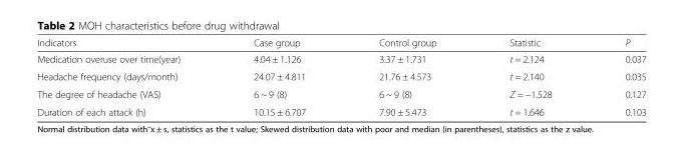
<table><thead><tr><td>Indicators</td><td>Case group</td><td>Control group</td><td>Statistic</td><td>P</td></tr></thead><tbody><tr><td>Medication overuse over time(year)</td><td>4.04 ± 1.126</td><td>3.37 ± 1.731</td><td>t = 2.124</td><td>0.037</td></tr><tr><td>Headache frequency (days/month)</td><td>24.07 ± 4.811</td><td>21.76 ± 4.573</td><td>t = 2.140</td><td>0.035</td></tr><tr><td>The degree of headache (VAS)</td><td>6 ~ 9 (8)</td><td>6 ~ 9 (8)</td><td>Z = −1.528</td><td>0.127</td></tr><tr><td>Duration of each attack (h)</td><td>10.15 ± 6.707</td><td>7.90 ± 5.473</td><td>t = 1.646</td><td>0.103</td></tr></tbody></table>